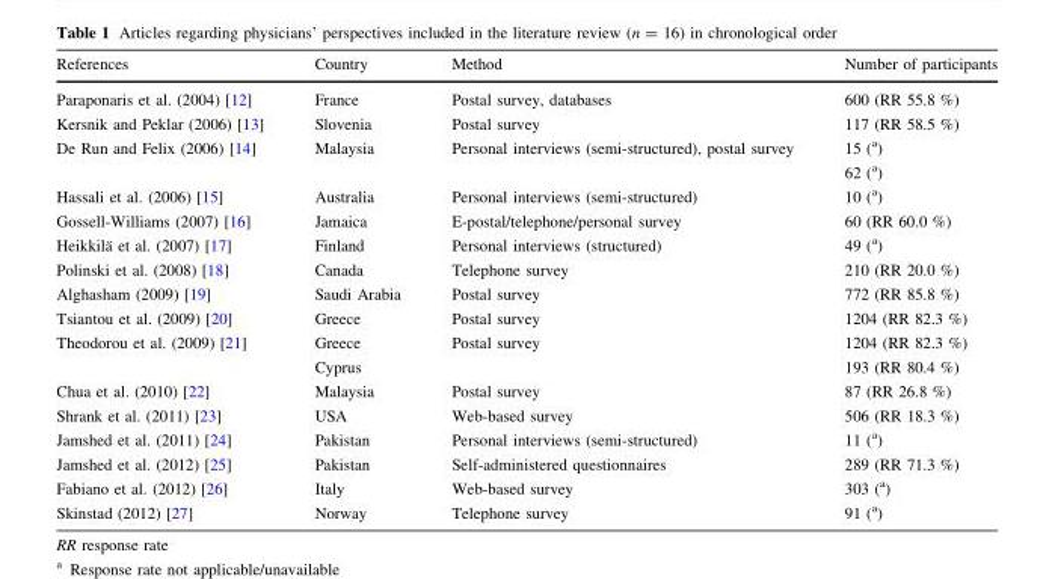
<table><thead><tr><td>References</td><td>Country</td><td>Method</td><td>Number of participants</td></tr></thead><tbody><tr><td>Paraponaris et al. (2004) [12]</td><td>France</td><td>Postal survey, databases</td><td>600 (RR 55.8 %)</td></tr><tr><td>Kersnik and Peklar (2006) [13]</td><td>Slovenia</td><td>Postal survey</td><td>117 (RR 58.5 %)</td></tr><tr><td>De Run and Felix (2006) [14]</td><td>Malaysia</td><td>Personal interviews (semi-structured), postal survey</td><td>15 (<sup>a</sup>) 62 (<sup>a</sup>)</td></tr><tr><td>Hassali et al. (2006) [15]</td><td>Australia</td><td>Personal interviews (semi-structured)</td><td>10 (<sup>a</sup>)</td></tr><tr><td>Gossell-Williams (2007) [16]</td><td>Jamaica</td><td>E-postal/telephone/personal survey</td><td>60 (RR 60.0 %)</td></tr><tr><td>Heikkila¨ et al. (2007) [17]</td><td>Finland</td><td>Personal interviews (structured)</td><td>49 (<sup>a</sup>)</td></tr><tr><td>Polinski et al. (2008) [18]</td><td>Canada</td><td>Telephone survey</td><td>210 (RR 20.0 %)</td></tr><tr><td>Alghasham (2009) [19]</td><td>Saudi Arabia</td><td>Postal survey</td><td>772 (RR 85.8 %)</td></tr><tr><td>Tsiantou et al. (2009) [20]</td><td>Greece</td><td>Postal survey</td><td>1204 (RR 82.3 %)</td></tr><tr><td>Theodorou et al. (2009) [21]</td><td>Greece Cyprus</td><td>Postal survey</td><td>1204 (RR 82.3 %) 193 (RR 80.4 %)</td></tr><tr><td>Chua et al. (2010) [22]</td><td>Malaysia</td><td>Postal survey</td><td>87 (RR 26.8 %)</td></tr><tr><td>Shrank et al. (2011) [23]</td><td>USA</td><td>Web-based survey</td><td>506 (RR 18.3 %)</td></tr><tr><td>Jamshed et al. (2011) [24]</td><td>Pakistan</td><td>Personal interviews (semi-structured)</td><td>11 (<sup>a</sup>)</td></tr><tr><td>Jamshed et al. (2012) [25]</td><td>Pakistan</td><td>Self-administered questionnaires</td><td>289 (RR 71.3 %)</td></tr><tr><td>Fabiano et al. (2012) [26]</td><td>Italy</td><td>Web-based survey</td><td>303 (<sup>a</sup>)</td></tr><tr><td>Skinstad (2012) [27]</td><td>Norway</td><td>Telephone survey</td><td>91 (<sup>a</sup>)</td></tr></tbody></table>